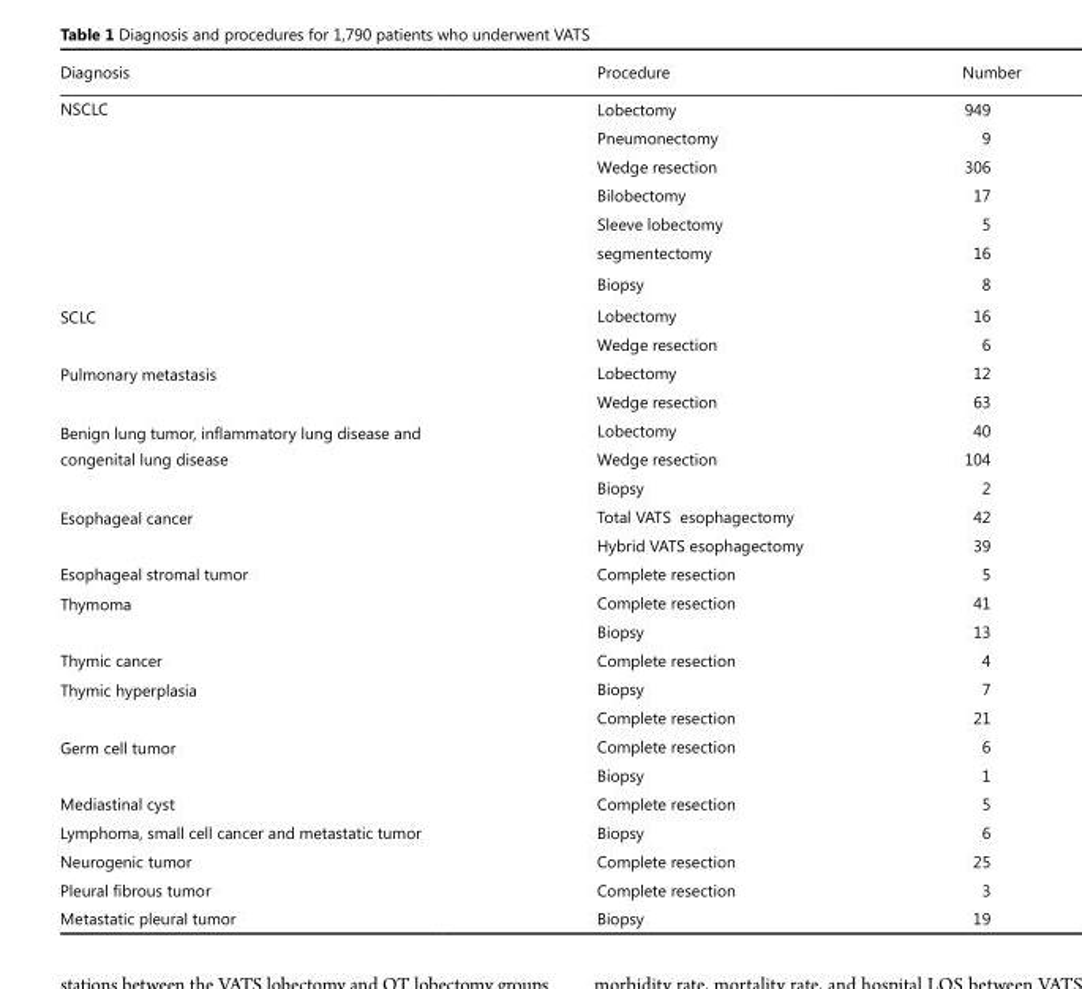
<table><thead><tr><td>Diagnosis</td><td>Procedure</td><td>Number</td></tr></thead><tbody><tr><td rowspan="7">NSCLC</td><td>Lobectomy</td><td>949</td></tr><tr><td>Pneumonectomy</td><td>9</td></tr><tr><td>Wedge resection</td><td>306</td></tr><tr><td>Bilobectomy</td><td>17</td></tr><tr><td>Sleeve lobectomy</td><td>5</td></tr><tr><td>segmentectomy</td><td>16</td></tr><tr><td>Biopsy</td><td>8</td></tr><tr><td rowspan="2">SCLC</td><td>Lobectomy</td><td>16</td></tr><tr><td>Wedge resection</td><td>6</td></tr><tr><td rowspan="2">Pulmonary metastasis</td><td>Lobectomy</td><td>12</td></tr><tr><td>Wedge resection</td><td>63</td></tr><tr><td rowspan="3">Benign lung tumor, inflammatory lung disease and congenital lung disease</td><td>Lobectomy</td><td>40</td></tr><tr><td>Wedge resection</td><td>104</td></tr><tr><td>Biopsy</td><td>2</td></tr><tr><td rowspan="2">esophageal cancer</td><td>Total VATS esophagectomy</td><td>42</td></tr><tr><td>Hybrid VATS esophagectomy</td><td>39</td></tr><tr><td>esophageal stromal tumor</td><td>Complete resection</td><td>5</td></tr><tr><td rowspan="2">Thymoma</td><td>Complete resection</td><td>41</td></tr><tr><td>Biopsy</td><td>13</td></tr><tr><td>Thymic cancer</td><td>Complete resection</td><td>4</td></tr><tr><td rowspan="2">Thymic hyperplasia</td><td>Biopsy</td><td>7</td></tr><tr><td>Complete resection</td><td>21</td></tr><tr><td rowspan="2">Germ cell tumor</td><td>Complete resection</td><td>6</td></tr><tr><td>Biopsy</td><td>1</td></tr><tr><td>Mediastinal cyst</td><td>Complete resection</td><td>5</td></tr><tr><td>Lymphoma, small cell cancer and metastatic tumor</td><td>Biopsy</td><td>6</td></tr><tr><td>Neurogenic tumor</td><td>Complete resection</td><td>25</td></tr><tr><td>Pleural fibrous tumor</td><td>Complete resection</td><td>3</td></tr><tr><td>Metastatic pleural tumor</td><td>Biopsy</td><td>19</td></tr></tbody></table>